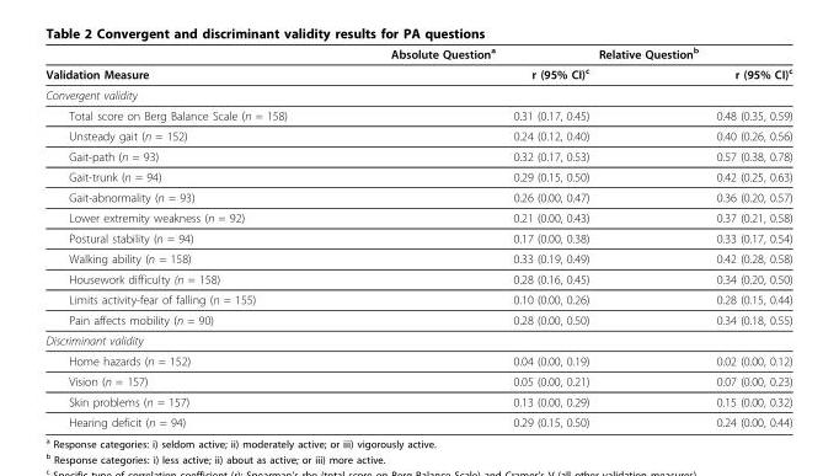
<table><thead><tr><td></td><td>Absolute Question<sup>a</sup></td><td>Relative Question<sup>b</sup></td></tr></thead><tbody><tr><td>Validation Measure</td><td>r (95% CI)<sup>c</sup></td><td>r (95% CI)<sup>c</sup></td></tr><tr><td colspan="3">Convergent validity</td></tr><tr><td>Total score on Berg Balance Scale (n = 158)</td><td>0.31 (0.17, 0.45)</td><td>0.48 (0.35, 0.59)</td></tr><tr><td>Unsteady gait (n = 152)</td><td>0.24 (0.12, 0.40)</td><td>0.40 (0.26, 0.56)</td></tr><tr><td>Gait-path (n = 93)</td><td>0.32 (0.17, 0.53)</td><td>0.57 (0.38, 0.78)</td></tr><tr><td>Gait-trunk (n = 94)</td><td>0.29 (0.15, 0.50)</td><td>0.42 (0.25, 0.63)</td></tr><tr><td>Gait-abnormality (n = 93)</td><td>0.26 (0.00, 0.47)</td><td>0.36 (0.20, 0.57)</td></tr><tr><td>Lower extremity weakness (n = 92)</td><td>0.21 (0.00, 0.43)</td><td>0.37 (0.21, 0.58)</td></tr><tr><td>Postural stability (n = 94)</td><td>0.17 (0.00, 0.38)</td><td>0.33 (0.17, 0.54)</td></tr><tr><td>Walking ability (n = 158)</td><td>0.33 (0.19, 0.49)</td><td>0.42 (0.28, 0.58)</td></tr><tr><td>Housework difficulty (n = 158)</td><td>0.28 (0.16, 0.45)</td><td>0.34 (0.20, 0.50)</td></tr><tr><td>Limits activity-fear of falling (n = 155)</td><td>0.10 (0.00, 0.26)</td><td>0.28 (0.15, 0.44)</td></tr><tr><td>Pain affects mobility (n = 90)</td><td>0.28 (0.00, 0.50)</td><td>0.34 (0.18, 0.55)</td></tr><tr><td colspan="3">Discriminant validity</td></tr><tr><td>Home hazards (n = 152)</td><td>0.04 (0.00, 0.19)</td><td>0.02 (0.00, 0.12)</td></tr><tr><td>Vision (n = 157)</td><td>0.05 (0.00, 0.21)</td><td>0.07 (0.00, 0.23)</td></tr><tr><td>Skin problems (n = 157)</td><td>0.13 (0.00, 0.29)</td><td>0.15 (0.00, 0.32)</td></tr><tr><td>Hearing deficit (n = 94)</td><td>0.29 (0.15, 0.50)</td><td>0.24 (0.00, 0.44)</td></tr></tbody></table>